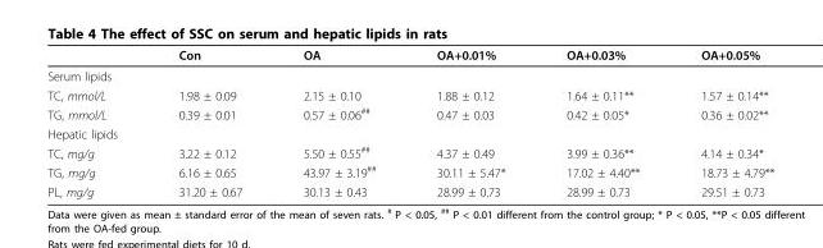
<table><thead><tr><td></td><td>Con</td><td>OA</td><td>OA+0.01%</td><td>OA+0.03%</td><td>OA+0.05%</td></tr></thead><tbody><tr><td colspan="6">Serum lipids</td></tr><tr><td>TC, mmol/L</td><td>1.98 ± 0.09</td><td>2.15 ± 0.10</td><td>1.88 ± 0.12</td><td>1.64 ± 0.11**</td><td>1.57 ± 0.14**</td></tr><tr><td>TG, mmol/L</td><td>0.39 ± 0.01</td><td>0.57 ± 0.06<sup>##</sup></td><td>0.47 ± 0.03</td><td>0.42 ± 0.05*</td><td>0.36 ± 0.02**</td></tr><tr><td colspan="6">Hepatic lipids</td></tr><tr><td>TC, mg/g</td><td>3.22 ± 0.12</td><td>5.50 ± 0.55<sup>##</sup></td><td>4.37 ± 0.49</td><td>3.99 ± 0.36**</td><td>4.14 ± 0.34*</td></tr><tr><td>TG, mg/g</td><td>6.16 ± 0.65</td><td>43.97 ± 3.19<sup>##</sup></td><td>30.11 ± 5.47*</td><td>17.02 ± 4.40**</td><td>18.73 ± 4.79**</td></tr><tr><td>PL, mg/g</td><td>31.20 ± 0.67</td><td>30.13 ± 0.43</td><td>28.99 ± 0.73</td><td>28.99 ± 0.73</td><td>29.51 ± 0.73</td></tr></tbody></table>